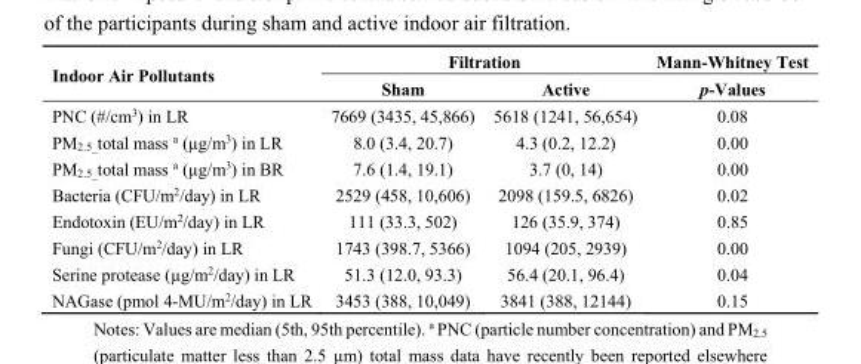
<table><thead><tr><td rowspan="2">Indoor Air Pollutants</td><td colspan="2">Filtration</td><td rowspan="2">Mann-Whitney Test p-Values</td></tr><tr><td>Sham</td><td>Active</td></tr></thead><tbody><tr><td>PNC (#/cm<sup>3</sup>) in LR</td><td>7669 (3435, 45,866)</td><td>5618 (1241, 56,654)</td><td>0.08</td></tr><tr><td>PM2.5_total mass a (µg/m3) in LR</td><td>8.0 (3.4, 20.7)</td><td>4.3 (0.2, 12.2)</td><td>0.00</td></tr><tr><td>PM2.5_total mass a (µg/m3) in BR</td><td>7.6 (1.4, 19.1)</td><td>3.7 (0, 14)</td><td>0.00</td></tr><tr><td>Bacteria (CFU/m<sup>2</sup>/day) in LR</td><td>2529 (458, 10,606)</td><td>2098 (159.5, 6826)</td><td>0.02</td></tr><tr><td>Endotoxin (EU/m<sup>2</sup>/day) in LR</td><td>111 (33.3, 502)</td><td>126 (35.9, 374)</td><td>0.85</td></tr><tr><td>Fungi (CFU/m<sup>2</sup>/day) in LR</td><td>1743 (398.7, 5366)</td><td>1094 (205, 2939)</td><td>0.00</td></tr><tr><td>Serine protease (µg/m<sup>2</sup>/day) in LR</td><td>51.3 (12.0, 93.3)</td><td>56.4 (20.1, 96.4)</td><td>0.04</td></tr><tr><td>NAGase (pmol 4-MU/m<sup>2</sup>/day) in LR</td><td>3453 (388, 10,049)</td><td>3841 (388, 12144)</td><td>0.15</td></tr></tbody></table>